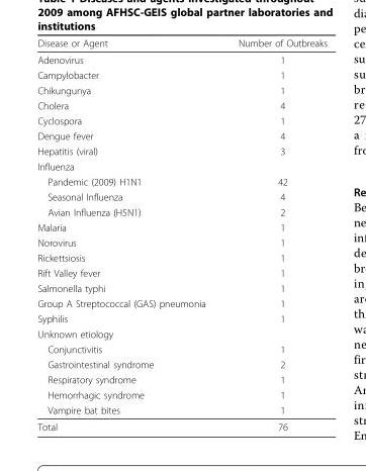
<table><thead><tr><td>Disease or Agent</td><td>Number of Outbreaks</td></tr></thead><tbody><tr><td>Adenovirus</td><td>1</td></tr><tr><td>Campylobacter</td><td>1</td></tr><tr><td>Chikungunya</td><td>1</td></tr><tr><td>Cholera</td><td>4</td></tr><tr><td>Cyclospora</td><td>1</td></tr><tr><td>Dengue fever</td><td>4</td></tr><tr><td>Hepatitis (viral)</td><td>3</td></tr><tr><td colspan="2">Influenza</td></tr><tr><td>Pandemic (2009) H1N1</td><td>42</td></tr><tr><td>Seasonal Influenza</td><td>4</td></tr><tr><td>Avian Influenza (H5N1)</td><td>2</td></tr><tr><td>Malaria</td><td>1</td></tr><tr><td>Norovirus</td><td>1</td></tr><tr><td>Rickettsiosis</td><td>1</td></tr><tr><td>Rift Valley fever</td><td>1</td></tr><tr><td>Salmonella typhi</td><td>1</td></tr><tr><td>Group A Streptococcal (GAS) pneumonia</td><td>1</td></tr><tr><td>Syphilis</td><td>1</td></tr><tr><td colspan="2">Unknown etiology</td></tr><tr><td>Conjunctivitis</td><td>1</td></tr><tr><td>Gastrointestinal syndrome</td><td>2</td></tr><tr><td>Respiratory syndrome</td><td>1</td></tr><tr><td>Hemorrhagic syndrome</td><td>1</td></tr><tr><td>Vampire bat bites</td><td>1</td></tr><tr><td>Total</td><td>76</td></tr></tbody></table>